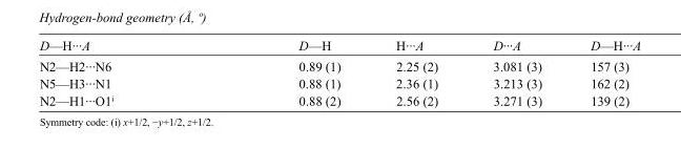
<table><tbody><tr><td>D—H···A</td><td>D—H</td><td>H···A</td><td>D···A</td><td>D—H···A</td></tr><tr><td>N2—H2···N6</td><td>0.89 (1)</td><td>2.25 (2)</td><td>3.081 (3)</td><td>157 (3)</td></tr><tr><td>N5—H3···N1</td><td>0.88 (1)</td><td>2.36 (1)</td><td>3.213 (3)</td><td>162 (2)</td></tr><tr><td>N2—H1···O1<sup>i</sup></td><td>0.88 (2)</td><td>2.56 (2)</td><td>3.271 (3)</td><td>139 (2)</td></tr></tbody></table>